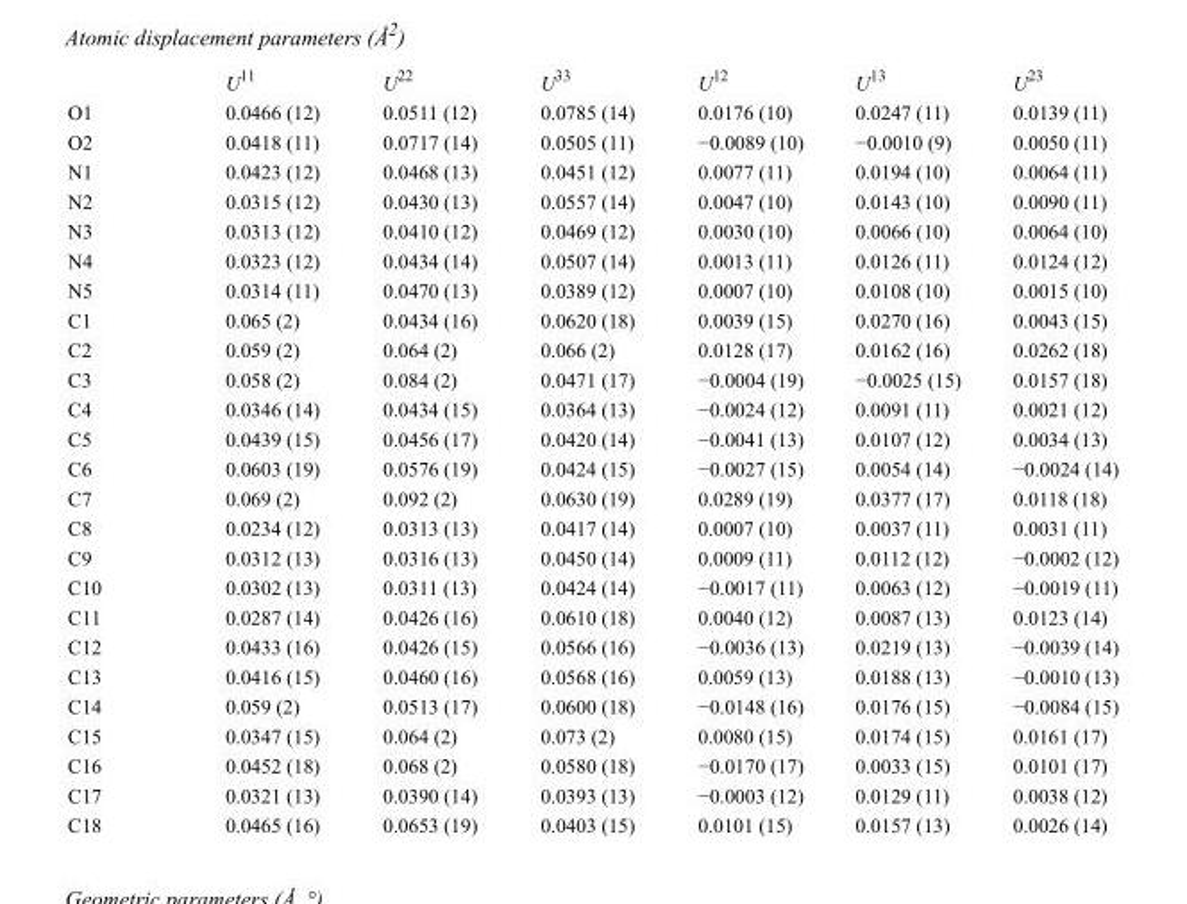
<table><thead><tr><td></td><td>U<sup>11</sup></td><td>U<sup>22</sup></td><td>U<sup>33</sup></td><td>U<sup>12</sup></td><td>U<sup>13</sup></td><td>U<sup>23</sup></td></tr></thead><tbody><tr><td>O1</td><td>0.0466 (12)</td><td>0.0511 (12)</td><td>0.0785 (14)</td><td>0.0176 (10)</td><td>0.0247 (11)</td><td>0.0139 (11)</td></tr><tr><td>O2</td><td>0.0418 (11)</td><td>0.0717 (14)</td><td>0.0505 (11)</td><td>−0.0089 (10)</td><td>−0.0010 (9)</td><td>0.0050 (11)</td></tr><tr><td>N1</td><td>0.0423 (12)</td><td>0.0468 (13)</td><td>0.0451 (12)</td><td>0.0077 (11)</td><td>0.0194 (10)</td><td>0.0064 (11)</td></tr><tr><td>N2</td><td>0.0315 (12)</td><td>0.0430 (13)</td><td>0.0557 (14)</td><td>0.0047 (10)</td><td>0.0143 (10)</td><td>0.0090 (11)</td></tr><tr><td>N3</td><td>0.0313 (12)</td><td>0.0410 (12)</td><td>0.0469 (12)</td><td>0.0030 (10)</td><td>0.0066 (10)</td><td>0.0064 (10)</td></tr><tr><td>N4</td><td>0.0323 (12)</td><td>0.0434 (14)</td><td>0.0507 (14)</td><td>0.0013 (11)</td><td>0.0126 (11)</td><td>0.0124 (12)</td></tr><tr><td>N5</td><td>0.0314 (11)</td><td>0.0470 (13)</td><td>0.0389 (12)</td><td>0.0007 (10)</td><td>0.0108 (10)</td><td>0.0015 (10)</td></tr><tr><td>C1</td><td>0.065 (2)</td><td>0.0434 (16)</td><td>0.0620 (18)</td><td>0.0039 (15)</td><td>0.0270 (16)</td><td>0.0043 (15)</td></tr><tr><td>C2</td><td>0.059 (2)</td><td>0.064 (2)</td><td>0.066 (2)</td><td>0.0128 (17)</td><td>0.0162 (16)</td><td>0.0262 (18)</td></tr><tr><td>C3</td><td>0.058 (2)</td><td>0.084 (2)</td><td>0.0471 (17)</td><td>−0.0004 (19)</td><td>−0.0025 (15)</td><td>0.0157 (18)</td></tr><tr><td>C4</td><td>0.0346 (14)</td><td>0.0434 (15)</td><td>0.0364 (13)</td><td>−0.0024 (12)</td><td>0.0091 (11)</td><td>0.0021 (12)</td></tr><tr><td>C5</td><td>0.0439 (15)</td><td>0.0456 (17)</td><td>0.0420 (14)</td><td>−0.0041 (13)</td><td>0.0107 (12)</td><td>0.0034 (13)</td></tr><tr><td>C6</td><td>0.0603 (19)</td><td>0.0576 (19)</td><td>0.0424 (15)</td><td>−0.0027 (15)</td><td>0.0054 (14)</td><td>−0.0024 (14)</td></tr><tr><td>C7</td><td>0.069 (2)</td><td>0.092 (2)</td><td>0.0630 (19)</td><td>0.0289 (19)</td><td>0.0377 (17)</td><td>0.0118 (18)</td></tr><tr><td>C8</td><td>0.0234 (12)</td><td>0.0313 (13)</td><td>0.0417 (14)</td><td>0.0007 (10)</td><td>0.0037 (11)</td><td>0.0031 (11)</td></tr><tr><td>C9</td><td>0.0312 (13)</td><td>0.0316 (13)</td><td>0.0450 (14)</td><td>0.0009 (11)</td><td>0.0112 (12)</td><td>−0.0002 (12)</td></tr><tr><td>C10</td><td>0.0302 (13)</td><td>0.0311 (13)</td><td>0.0424 (14)</td><td>−0.0017 (11)</td><td>0.0063 (12)</td><td>−0.0019 (11)</td></tr><tr><td>C11</td><td>0.0287 (14)</td><td>0.0426 (16)</td><td>0.0610 (18)</td><td>0.0040 (12)</td><td>0.0087 (13)</td><td>0.0123 (14)</td></tr><tr><td>C12</td><td>0.0433 (16)</td><td>0.0426 (15)</td><td>0.0566 (16)</td><td>−0.0036 (13)</td><td>0.0219 (13)</td><td>−0.0039 (14)</td></tr><tr><td>C13</td><td>0.0416 (15)</td><td>0.0460 (16)</td><td>0.0568 (16)</td><td>0.0059 (13)</td><td>0.0188 (13)</td><td>−0.0010 (13)</td></tr><tr><td>C14</td><td>0.059 (2)</td><td>0.0513 (17)</td><td>0.0600 (18)</td><td>−0.0148 (16)</td><td>0.0176 (15)</td><td>−0.0084 (15)</td></tr><tr><td>C15</td><td>0.0347 (15)</td><td>0.064 (2)</td><td>0.073 (2)</td><td>0.0080 (15)</td><td>0.0174 (15)</td><td>0.0161 (17)</td></tr><tr><td>C16</td><td>0.0452 (18)</td><td>0.068 (2)</td><td>0.0580 (18)</td><td>−0.0170 (17)</td><td>0.0033 (15)</td><td>0.0101 (17)</td></tr><tr><td>C17</td><td>0.0321 (13)</td><td>0.0390 (14)</td><td>0.0393 (13)</td><td>−0.0003 (12)</td><td>0.0129 (11)</td><td>0.0038 (12)</td></tr><tr><td>C18</td><td>0.0465 (16)</td><td>0.0653 (19)</td><td>0.0403 (15)</td><td>0.0101 (15)</td><td>0.0157 (13)</td><td>0.0026 (14)</td></tr></tbody></table>